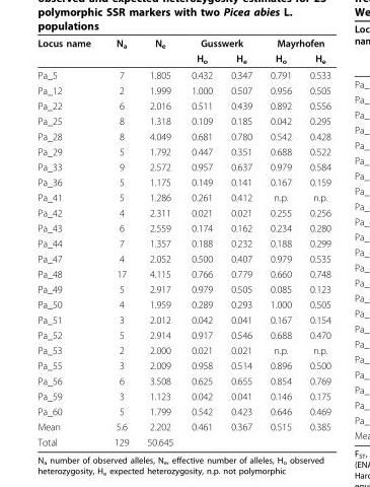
<table><thead><tr><td rowspan="2">Locus name</td><td rowspan="2">N<sub>a</sub></td><td rowspan="2">N<sub>e</sub></td><td colspan="2">Gusswerk</td><td colspan="2">Mayrhofen</td></tr><tr><td>H<sub>o</sub></td><td>H<sub>e</sub></td><td>H<sub>o</sub></td><td>H<sub>e</sub></td></tr></thead><tbody><tr><td>Pa_5</td><td>7</td><td>1.805</td><td>0.432</td><td>0.347</td><td>0.791</td><td>0.533</td></tr><tr><td>Pa_12</td><td>2</td><td>1.999</td><td>1.000</td><td>0.507</td><td>0.956</td><td>0.505</td></tr><tr><td>Pa_22</td><td>6</td><td>2.016</td><td>0.511</td><td>0.439</td><td>0.892</td><td>0.556</td></tr><tr><td>Pa_25</td><td>8</td><td>1.318</td><td>0.109</td><td>0.185</td><td>0.042</td><td>0.295</td></tr><tr><td>Pa_28</td><td>8</td><td>4.049</td><td>0.681</td><td>0.780</td><td>0.542</td><td>0.428</td></tr><tr><td>Pa_29</td><td>5</td><td>1.792</td><td>0.447</td><td>0.351</td><td>0.688</td><td>0.522</td></tr><tr><td>Pa_33</td><td>9</td><td>2.572</td><td>0.957</td><td>0.637</td><td>0.979</td><td>0.584</td></tr><tr><td>Pa_36</td><td>5</td><td>1.175</td><td>0.149</td><td>0.141</td><td>0.167</td><td>0.159</td></tr><tr><td>Pa_41</td><td>5</td><td>1.286</td><td>0.261</td><td>0.412</td><td>n.p.</td><td>n.p.</td></tr><tr><td>Pa_42</td><td>4</td><td>2.311</td><td>0.021</td><td>0.021</td><td>0.255</td><td>0.256</td></tr><tr><td>Pa_43</td><td>6</td><td>2.559</td><td>0.174</td><td>0.162</td><td>0.234</td><td>0.280</td></tr><tr><td>Pa_44</td><td>7</td><td>1.357</td><td>0.188</td><td>0.232</td><td>0.188</td><td>0.299</td></tr><tr><td>Pa_47</td><td>4</td><td>2.052</td><td>0.500</td><td>0.407</td><td>0.979</td><td>0.535</td></tr><tr><td>Pa_48</td><td>17</td><td>4.115</td><td>0.766</td><td>0.779</td><td>0.660</td><td>0.748</td></tr><tr><td>Pa_49</td><td>5</td><td>2.917</td><td>0.979</td><td>0.505</td><td>0.085</td><td>0.123</td></tr><tr><td>Pa_50</td><td>4</td><td>1.959</td><td>0.289</td><td>0.293</td><td>1.000</td><td>0.505</td></tr><tr><td>Pa_51</td><td>3</td><td>2.012</td><td>0.042</td><td>0.041</td><td>0.167</td><td>0.154</td></tr><tr><td>Pa_52</td><td>5</td><td>2.914</td><td>0.917</td><td>0.546</td><td>0.688</td><td>0.470</td></tr><tr><td>Pa_53</td><td>2</td><td>2.000</td><td>0.021</td><td>0.021</td><td>n.p.</td><td>n.p.</td></tr><tr><td>Pa_55</td><td>3</td><td>2.009</td><td>0.958</td><td>0.514</td><td>0.896</td><td>0.500</td></tr><tr><td>Pa_56</td><td>6</td><td>3.508</td><td>0.625</td><td>0.655</td><td>0.854</td><td>0.769</td></tr><tr><td>Pa_59</td><td>3</td><td>1.123</td><td>0.042</td><td>0.041</td><td>0.146</td><td>0.175</td></tr><tr><td>Pa_60</td><td>5</td><td>1.799</td><td>0.542</td><td>0.423</td><td>0.646</td><td>0.469</td></tr><tr><td>Mean</td><td>5.6</td><td>2.202</td><td>0.461</td><td>0.367</td><td>0.515</td><td>0.385</td></tr><tr><td>Total</td><td>129</td><td>50.645</td><td></td><td></td><td></td><td></td></tr></tbody></table>